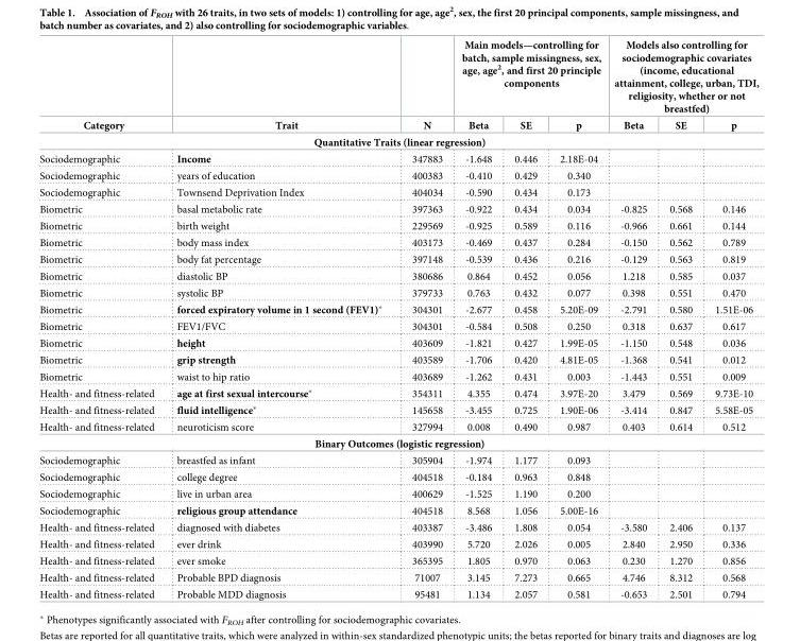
<table><thead><tr><td rowspan="2">Category</td><td rowspan="2">Trait</td><td rowspan="2">N</td><td colspan="3">Main models—controlling for batch, sample missingness, sex, age, age<sup>2</sup>, and first 20 principle components</td><td colspan="3">Models also controlling for sociodemographic covariates (income, educational attainment, college, urban, TDI, religiosity, whether or not breastfed)</td></tr><tr><td>Beta</td><td>SE</td><td>p</td><td>Beta</td><td>SE</td><td>p</td></tr></thead><tbody><tr><td colspan="9">Quantitative Traits (linear regression)</td></tr><tr><td>Sociodemographic</td><td>Income</td><td>347883</td><td>-1.648</td><td>0.446</td><td>2.18E-04</td><td></td><td></td><td></td></tr><tr><td>Sociodemographic</td><td>years of education</td><td>400383</td><td>-0.410</td><td>0.429</td><td>0.340</td><td></td><td></td><td></td></tr><tr><td>Sociodemographic</td><td>Townsend Deprivation Index</td><td>404034</td><td>-0.590</td><td>0.434</td><td>0.173</td><td></td><td></td><td></td></tr><tr><td>Biometric</td><td>basal metabolic rate</td><td>397363</td><td>-0.922</td><td>0.434</td><td>0.034</td><td>-0.825</td><td>0.568</td><td>0.146</td></tr><tr><td>Biometric</td><td>birth weight</td><td>229569</td><td>-0.925</td><td>0.589</td><td>0.116</td><td>-0.966</td><td>0.661</td><td>0.144</td></tr><tr><td>Biometric</td><td>body mass index</td><td>403173</td><td>-0.469</td><td>0.437</td><td>0.284</td><td>-0.150</td><td>0.562</td><td>0.789</td></tr><tr><td>Biometric</td><td>body fat percentage</td><td>397148</td><td>-0.539</td><td>0.436</td><td>0.216</td><td>-0.129</td><td>0.563</td><td>0.819</td></tr><tr><td>Biometric</td><td>diastolic BP</td><td>380686</td><td>0.864</td><td>0.452</td><td>0.056</td><td>1.218</td><td>0.585</td><td>0.037</td></tr><tr><td>Biometric</td><td>systolic BP</td><td>379733</td><td>0.763</td><td>0.432</td><td>0.077</td><td>0.398</td><td>0.551</td><td>0.470</td></tr><tr><td>Biometric</td><td>forced expiratory volume in 1 second (FEV1)*</td><td>304301</td><td>-2.677</td><td>0.458</td><td>5.20E-09</td><td>-2.791</td><td>0.580</td><td>1.51E-06</td></tr><tr><td>Biometric</td><td>FEV1/FVC</td><td>304301</td><td>-0.584</td><td>0.508</td><td>0.250</td><td>0.318</td><td>0.637</td><td>0.617</td></tr><tr><td>Biometric</td><td>height</td><td>403609</td><td>-1.821</td><td>0.427</td><td>1.99E-05</td><td>-1.150</td><td>0.548</td><td>0.036</td></tr><tr><td>Biometric</td><td>grip strength</td><td>403589</td><td>-1.706</td><td>0.420</td><td>4.81E-05</td><td>-1.368</td><td>0.541</td><td>0.012</td></tr><tr><td>Biometric</td><td>waist to hip ratio</td><td>403689</td><td>-1.262</td><td>0.431</td><td>0.003</td><td>-1.443</td><td>0.551</td><td>0.009</td></tr><tr><td>Health- and fitness-related</td><td>age at first sexual intercourse*</td><td>354311</td><td>4.355</td><td>0.474</td><td>3.97E-20</td><td>3.479</td><td>0.569</td><td>9.73E-10</td></tr><tr><td>Health- and fitness-related</td><td>fluid intelligence*</td><td>145658</td><td>-3.455</td><td>0.725</td><td>1.90E-06</td><td>-3.414</td><td>0.847</td><td>5.58E-05</td></tr><tr><td>Health- and fitness-related</td><td>neuroticism score</td><td>327994</td><td>0.008</td><td>0.490</td><td>0.987</td><td>0.403</td><td>0.614</td><td>0.512</td></tr><tr><td colspan="9">Binary Outcomes (logistic regression)</td></tr><tr><td>Sociodemographic</td><td>breastfed as infant</td><td>305904</td><td>-1.974</td><td>1.177</td><td>0.093</td><td></td><td></td><td></td></tr><tr><td>Sociodemographic</td><td>college degree</td><td>404518</td><td>-0.184</td><td>0.963</td><td>0.848</td><td></td><td></td><td></td></tr><tr><td>Sociodemographic</td><td>live in urban area</td><td>400629</td><td>-1.525</td><td>1.190</td><td>0.200</td><td></td><td></td><td></td></tr><tr><td>Sociodemographic</td><td>religious group attendance</td><td>404518</td><td>8.568</td><td>1.056</td><td>5.00E-16</td><td></td><td></td><td></td></tr><tr><td>Health- and fitness-related</td><td>diagnosed with diabetes</td><td>403387</td><td>-3.486</td><td>1.808</td><td>0.054</td><td>-3.580</td><td>2.406</td><td>0.137</td></tr><tr><td>Health- and fitness-related</td><td>ever drink</td><td>403990</td><td>5.720</td><td>2.026</td><td>0.005</td><td>2.840</td><td>2.950</td><td>0.336</td></tr><tr><td>Health- and fitness-related</td><td>ever smoke</td><td>365395</td><td>1.805</td><td>0.970</td><td>0.063</td><td>0.230</td><td>1.270</td><td>0.856</td></tr><tr><td>Health- and fitness-related</td><td>Probable BPD diagnosis</td><td>71007</td><td>3.145</td><td>7.273</td><td>0.665</td><td>4.746</td><td>8.312</td><td>0.568</td></tr><tr><td>Health- and fitness-related</td><td>Probable MDD diagnosis</td><td>95481</td><td>1.134</td><td>2.057</td><td>0.581</td><td>-0.653</td><td>2.501</td><td>0.794</td></tr></tbody></table>